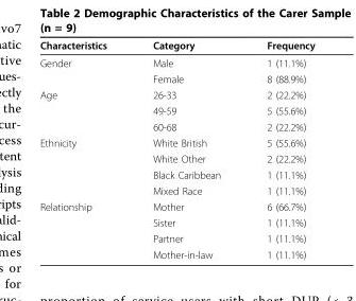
<table><thead><tr><td>Characteristics</td><td>Category</td><td>Frequency</td></tr></thead><tbody><tr><td rowspan="2">Gender</td><td>Male</td><td>1 (11.1%)</td></tr><tr><td>Female</td><td>8 (88.9%)</td></tr><tr><td rowspan="3">Age</td><td>26-33</td><td>2 (22.2%)</td></tr><tr><td>49-59</td><td>5 (55.6%)</td></tr><tr><td>60-68</td><td>2 (22.2%)</td></tr><tr><td rowspan="4">Ethnicity</td><td>White British</td><td>5 (55.6%)</td></tr><tr><td>White Other</td><td>2 (22.2%)</td></tr><tr><td>Black Caribbean</td><td>1 (11.1%)</td></tr><tr><td>Mixed Race</td><td>1 (11.1%)</td></tr><tr><td rowspan="4">Relationship</td><td>Mother</td><td>6 (66.7%)</td></tr><tr><td>Sister</td><td>1 (11.1%)</td></tr><tr><td>Partner</td><td>1 (11.1%)</td></tr><tr><td>Mother-in-law</td><td>1 (11.1%)</td></tr></tbody></table>